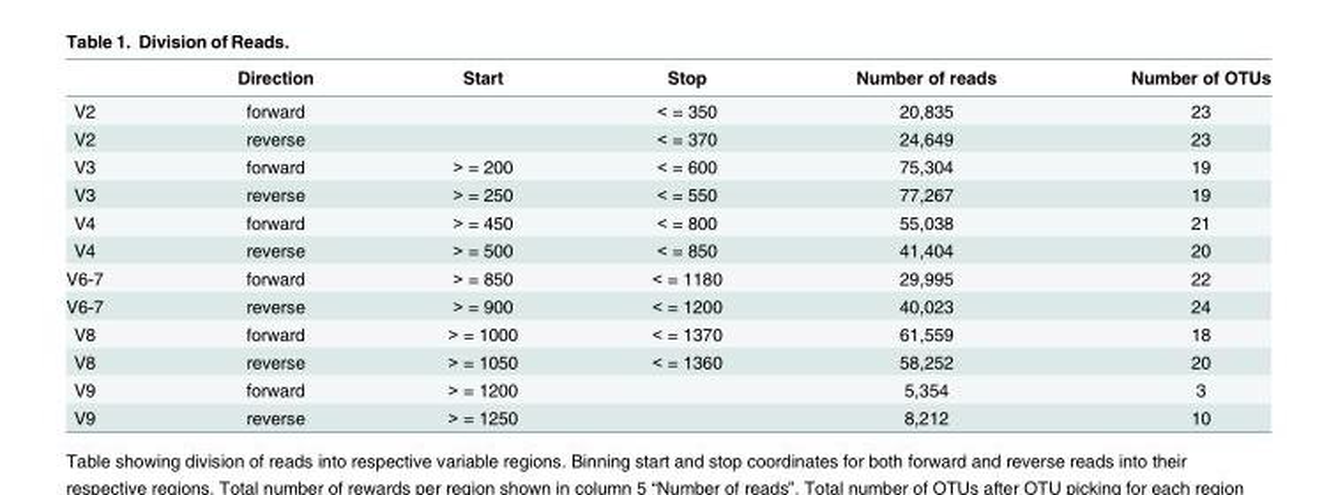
<table><thead><tr><td></td><td>Direction</td><td>Start</td><td>Stop</td><td>Number of reads</td><td>Number of OTUs</td></tr></thead><tbody><tr><td>V2</td><td>forward</td><td></td><td>&lt; = 350</td><td>20,835</td><td>23</td></tr><tr><td>V2</td><td>reverse</td><td></td><td>&lt; = 370</td><td>24,649</td><td>23</td></tr><tr><td>V3</td><td>forward</td><td>&gt; = 200</td><td>&lt; = 600</td><td>75,304</td><td>19</td></tr><tr><td>V3</td><td>reverse</td><td>&gt; = 250</td><td>&lt; = 550</td><td>77,267</td><td>19</td></tr><tr><td>V4</td><td>forward</td><td>&gt; = 450</td><td>&lt; = 800</td><td>55,038</td><td>21</td></tr><tr><td>V4</td><td>reverse</td><td>&gt; = 500</td><td>&lt; = 850</td><td>41,404</td><td>20</td></tr><tr><td>V6-7</td><td>forward</td><td>&gt; = 850</td><td>&lt; = 1180</td><td>29,995</td><td>22</td></tr><tr><td>V6-7</td><td>reverse</td><td>&gt; = 900</td><td>&lt; = 1200</td><td>40,023</td><td>24</td></tr><tr><td>V8</td><td>forward</td><td>&gt; = 1000</td><td>&lt; = 1370</td><td>61,559</td><td>18</td></tr><tr><td>V8</td><td>reverse</td><td>&gt; = 1050</td><td>&lt; = 1360</td><td>58,252</td><td>20</td></tr><tr><td>V9</td><td>forward</td><td>&gt; = 1200</td><td></td><td>5,354</td><td>3</td></tr><tr><td>V9</td><td>reverse</td><td>&gt; = 1250</td><td></td><td>8,212</td><td>10</td></tr></tbody></table>